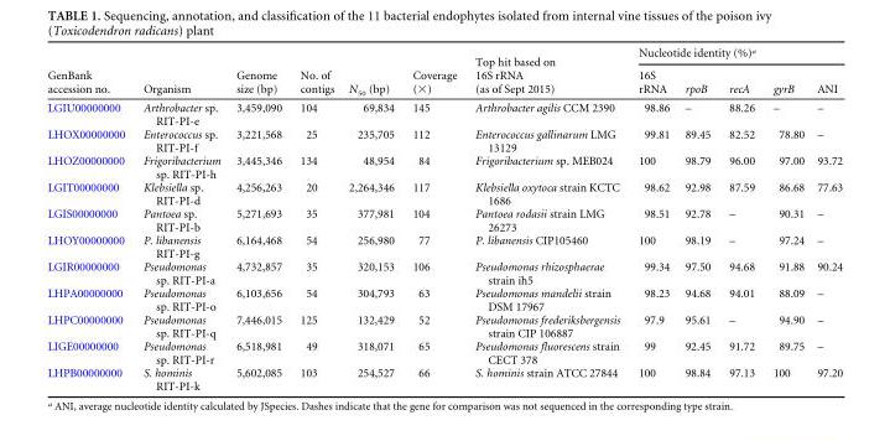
<table><thead><tr><td rowspan="2">GenBank accession no.</td><td rowspan="2">Organism</td><td rowspan="2">Genome size (bp)</td><td rowspan="2">No. of contigs</td><td rowspan="2">N<sub>50</sub> (bp)</td><td rowspan="2">Coverage (×)</td><td rowspan="2">Top hit based on 16S rRNA (as of Sept 2015)</td><td colspan="5">Nucleotide identity (%)<sup>a</sup></td></tr><tr><td>16S rRNA</td><td>rpoB</td><td>recA</td><td>gyrB</td><td>ANI</td></tr></thead><tbody><tr><td>LGIU00000000</td><td>Arthrobacter sp. RIT-PI-e</td><td>3,459,090</td><td>104</td><td>69,834</td><td>145</td><td>Arthrobacter agilis CCM 2390</td><td>98.86</td><td>–</td><td>88.26</td><td>–</td><td>–</td></tr><tr><td>LHOX00000000</td><td>Enterococcus sp. RIT-PI-f</td><td>3,221,568</td><td>25</td><td>235,705</td><td>112</td><td>Enterococcus gallinarum LMG 13129</td><td>99.81</td><td>89.45</td><td>82.52</td><td>78.80</td><td>–</td></tr><tr><td>LHOZ00000000</td><td>Frigoribacterium sp. RIT-PI-h</td><td>3,445,346</td><td>134</td><td>48,954</td><td>84</td><td>Frigoribacterium sp. MEB024</td><td>100</td><td>98.79</td><td>96.00</td><td>97.00</td><td>93.72</td></tr><tr><td>LGIT00000000</td><td>Klebsiella sp. RIT-PI-d</td><td>4,256,263</td><td>20</td><td>2,264,346</td><td>117</td><td>Klebsiella oxytoca strain KCTC 1686</td><td>98.62</td><td>92.98</td><td>87.59</td><td>86.68</td><td>77.63</td></tr><tr><td>LGIS00000000</td><td>Pantoea sp. RIT-PI-b</td><td>5,271,693</td><td>35</td><td>377,981</td><td>104</td><td>Pantoea rodasii strain LMG 26273</td><td>98.51</td><td>92.78</td><td>–</td><td>90.31</td><td>–</td></tr><tr><td>LHOY00000000</td><td>P. libanensis RIT-PI-g</td><td>6,164,468</td><td>54</td><td>256,980</td><td>77</td><td>P. libanensis CIP105460</td><td>100</td><td>98.19</td><td>–</td><td>97.24</td><td>–</td></tr><tr><td>LGIR00000000</td><td>Pseudomonas sp. RIT-PI-a</td><td>4,732,857</td><td>35</td><td>320,153</td><td>106</td><td>Pseudomonas rhizosphaerae strain ih5</td><td>99.34</td><td>97.50</td><td>94.68</td><td>91.88</td><td>90.24</td></tr><tr><td>LHPA00000000</td><td>Pseudomonas sp. RIT-PI-o</td><td>6,103,656</td><td>54</td><td>304,793</td><td>63</td><td>Pseudomonas mandelii strain DSM 17967</td><td>98.23</td><td>94.68</td><td>94.01</td><td>88.09</td><td>–</td></tr><tr><td>LHPC00000000</td><td>Pseudomonas sp. RIT-PI-q</td><td>7,446,015</td><td>125</td><td>132,429</td><td>52</td><td>Pseudomonas frederiksbergensis strain CIP 106887</td><td>97.9</td><td>95.61</td><td>–</td><td>94.90</td><td>–</td></tr><tr><td>LIGE00000000</td><td>Pseudomonas sp. RIT-PI-r</td><td>6,518,981</td><td>49</td><td>318,071</td><td>65</td><td>Pseudomonas fluorescens strain CECT 378</td><td>99</td><td>92.45</td><td>91.72</td><td>89.75</td><td>–</td></tr><tr><td>LHPB00000000</td><td>S. hominis RIT-PI-k</td><td>5,602,085</td><td>103</td><td>254,527</td><td>66</td><td>S. hominis strain ATCC 27844</td><td>100</td><td>98.84</td><td>97.13</td><td>100</td><td>97.20</td></tr></tbody></table>